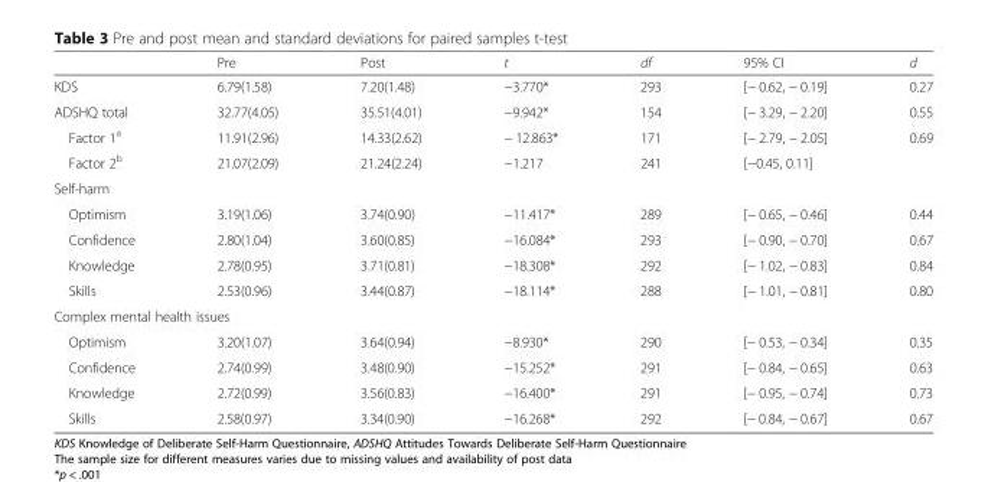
<table><thead><tr><td></td><td>Pre</td><td>Post</td><td>t</td><td>df</td><td>95% CI</td><td>d</td></tr></thead><tbody><tr><td>KDS</td><td>6.79(1.58)</td><td>7.20(1.48)</td><td>−3.770*</td><td>293</td><td>[− 0.62, − 0.19]</td><td>0.27</td></tr><tr><td>ADSHQ total</td><td>32.77(4.05)</td><td>35.51(4.01)</td><td>−9.942*</td><td>154</td><td>[− 3.29, − 2.20]</td><td>0.55</td></tr><tr><td>Factor 1<sup>a</sup></td><td>11.91(2.96)</td><td>14.33(2.62)</td><td>− 12.863*</td><td>171</td><td>[− 2.79, − 2.05]</td><td>0.69</td></tr><tr><td>Factor 2<sup>b</sup></td><td>21.07(2.09)</td><td>21.24(2.24)</td><td>−1.217</td><td>241</td><td>[−0.45, 0.11]</td><td></td></tr><tr><td colspan="7">Self-harm</td></tr><tr><td>Optimism</td><td>3.19(1.06)</td><td>3.74(0.90)</td><td>−11.417*</td><td>289</td><td>[− 0.65, − 0.46]</td><td>0.44</td></tr><tr><td>Confidence</td><td>2.80(1.04)</td><td>3.60(0.85)</td><td>−16.084*</td><td>293</td><td>[− 0.90, − 0.70]</td><td>0.67</td></tr><tr><td>Knowledge</td><td>2.78(0.95)</td><td>3.71(0.81)</td><td>−18.308*</td><td>292</td><td>[− 1.02, − 0.83]</td><td>0.84</td></tr><tr><td>Skills</td><td>2.53(0.96)</td><td>3.44(0.87)</td><td>−18.114*</td><td>288</td><td>[− 1.01, − 0.81]</td><td>0.80</td></tr><tr><td colspan="7">Complex mental health issues</td></tr><tr><td>Optimism</td><td>3.20(1.07)</td><td>3.64(0.94)</td><td>−8.930*</td><td>290</td><td>[− 0.53, − 0.34]</td><td>0.35</td></tr><tr><td>Confidence</td><td>2.74(0.99)</td><td>3.48(0.90)</td><td>−15.252*</td><td>291</td><td>[− 0.84, − 0.65]</td><td>0.63</td></tr><tr><td>Knowledge</td><td>2.72(0.99)</td><td>3.56(0.83)</td><td>−16.400*</td><td>291</td><td>[− 0.95, − 0.74]</td><td>0.73</td></tr><tr><td>Skills</td><td>2.58(0.97)</td><td>3.34(0.90)</td><td>−16.268*</td><td>292</td><td>[− 0.84, − 0.67]</td><td>0.67</td></tr></tbody></table>